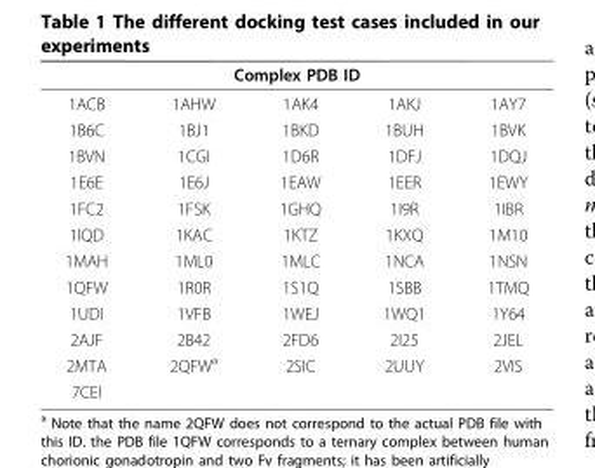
<table><thead><tr><td colspan="5">Complex PDB ID</td></tr><tr><td>1ACB</td><td>1AHW</td><td>1AK4</td><td>1AKJ</td><td>1AY7</td></tr></thead><tbody><tr><td>1B6C</td><td>1BJ1</td><td>1BKD</td><td>1BUH</td><td>1BVK</td></tr><tr><td>1BVN</td><td>1CGI</td><td>1D6R</td><td>1DFJ</td><td>1DQJ</td></tr><tr><td>1E6E</td><td>1E6J</td><td>1EAW</td><td>1EER</td><td>1EWY</td></tr><tr><td>1FC2</td><td>1FSK</td><td>1GHQ</td><td>1I9R</td><td>1IBR</td></tr><tr><td>1IQD</td><td>1KAC</td><td>1KTZ</td><td>1KXQ</td><td>1M10</td></tr><tr><td>1MAH</td><td>1ML0</td><td>1MLC</td><td>1NCA</td><td>1NSN</td></tr><tr><td>1QFW</td><td>1R0R</td><td>1S1Q</td><td>1SBB</td><td>1TMQ</td></tr><tr><td>1UDI</td><td>1VFB</td><td>1WEJ</td><td>1WQ1</td><td>1Y64</td></tr><tr><td>2AJF</td><td>2B42</td><td>2FD6</td><td>2I25</td><td>2JEL</td></tr><tr><td>2MTA</td><td>2QFW<sup>a</sup></td><td>2SIC</td><td>2UUY</td><td>2VIS</td></tr><tr><td>7CEI</td><td></td><td></td><td></td><td></td></tr></tbody></table>